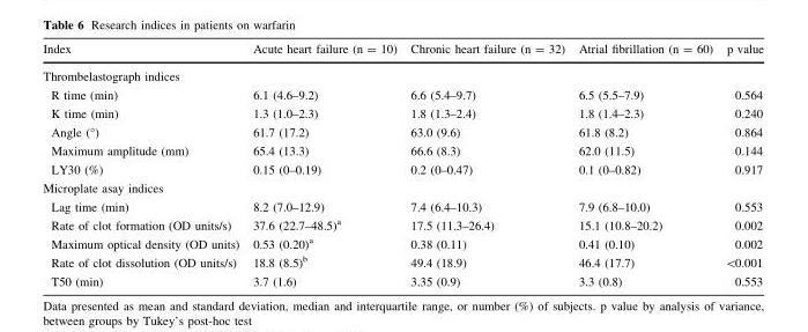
<table><thead><tr><td>Index</td><td>Acute heart failure (n = 10)</td><td>Chronic heart failure (n = 32)</td><td>Atrial fibrillation (n = 60)</td><td>p value</td></tr></thead><tbody><tr><td colspan="5">Thrombelastograph indices</td></tr><tr><td>R time (min)</td><td>6.1 (4.6–9.2)</td><td>6.6 (5.4–9.7)</td><td>6.5 (5.5–7.9)</td><td>0.564</td></tr><tr><td>K time (min)</td><td>1.3 (1.0–2.3)</td><td>1.8 (1.3–2.4)</td><td>1.8 (1.4–2.3)</td><td>0.240</td></tr><tr><td>Angle (°)</td><td>61.7 (17.2)</td><td>63.0 (9.6)</td><td>61.8 (8.2)</td><td>0.864</td></tr><tr><td>Maximum amplitude (mm)</td><td>65.4 (13.3)</td><td>66.6 (8.3)</td><td>62.0 (11.5)</td><td>0.144</td></tr><tr><td>LY30 (%)</td><td>0.15 (0–0.19)</td><td>0.2 (0–0.47)</td><td>0.1 (0–0.82)</td><td>0.917</td></tr><tr><td colspan="5">Microplate asay indices</td></tr><tr><td>Lag time (min)</td><td>8.2 (7.0–12.9)</td><td>7.4 (6.4–10.3)</td><td>7.9 (6.8–10.0)</td><td>0.553</td></tr><tr><td>Rate of clot formation (OD units/s)</td><td>37.6 (22.7–48.5)<sup>a</sup></td><td>17.5 (11.3–26.4)</td><td>15.1 (10.8–20.2)</td><td>0.002</td></tr><tr><td>Maximum optical density (OD units)</td><td>0.53 (0.20)<sup>a</sup></td><td>0.38 (0.11)</td><td>0.41 (0.10)</td><td>0.002</td></tr><tr><td>Rate of clot dissolution (OD units/s)</td><td>18.8 (8.5)<sup>b</sup></td><td>49.4 (18.9)</td><td>46.4 (17.7)</td><td>&lt;0.001</td></tr><tr><td>T50 (min)</td><td>3.7 (1.6)</td><td>3.35 (0.9)</td><td>3.3 (0.8)</td><td>0.553</td></tr></tbody></table>